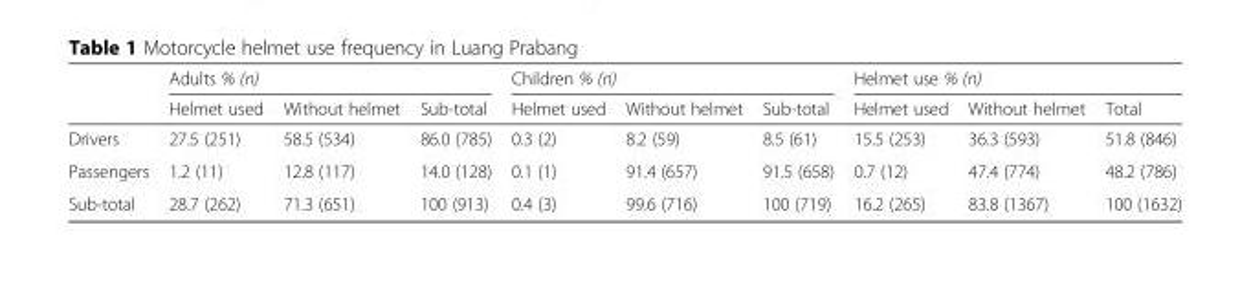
<table><thead><tr><td rowspan="2"></td><td colspan="3">Adults % (n)</td><td colspan="3">Children % (n)</td><td colspan="3">Helmet use % (n)</td></tr><tr><td>Helmet used</td><td>Without helmet</td><td>Sub-total</td><td>Helmet used</td><td>Without helmet</td><td>Sub-total</td><td>Helmet used</td><td>Without helmet</td><td>Total</td></tr></thead><tbody><tr><td>Drivers</td><td>27.5 (251)</td><td>58.5 (534)</td><td>86.0 (785)</td><td>0.3 (2)</td><td>8.2 (59)</td><td>8.5 (61)</td><td>15.5 (253)</td><td>36.3 (593)</td><td>51.8 (846)</td></tr><tr><td>Passengers</td><td>1.2 (11)</td><td>12.8 (117)</td><td>14.0 (128)</td><td>0.1 (1)</td><td>91.4 (657)</td><td>91.5 (658)</td><td>0.7 (12)</td><td>47.4 (774)</td><td>48.2 (786)</td></tr><tr><td>Sub-total</td><td>28.7 (262)</td><td>71.3 (651)</td><td>100 (913)</td><td>0.4 (3)</td><td>99.6 (716)</td><td>100 (719)</td><td>16.2 (265)</td><td>83.8 (1367)</td><td>100 (1632)</td></tr></tbody></table>